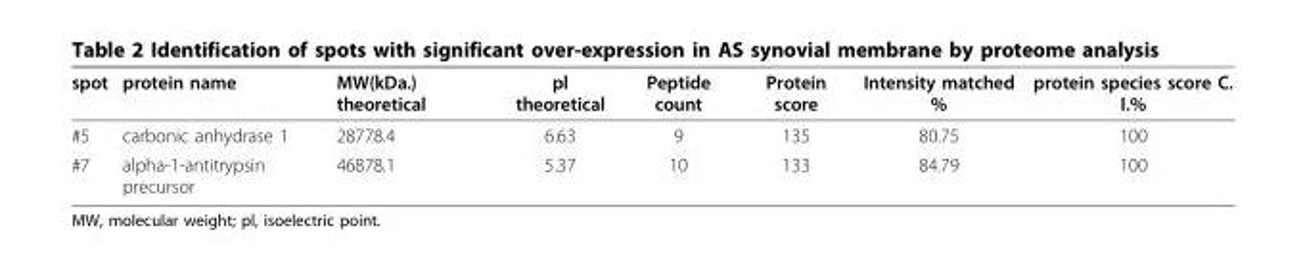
<table><thead><tr><td>spot</td><td>protein name</td><td>MW(kDa.) theoretical</td><td>pl theoretical</td><td>Peptide count</td><td>Protein score</td><td>Intensity matched %</td><td>protein species score C. I.%</td></tr></thead><tbody><tr><td>#5</td><td>carbonic anhydrase 1</td><td>28778.4</td><td>6.63</td><td>9</td><td>135</td><td>80.75</td><td>100</td></tr><tr><td>#7</td><td>alpha-1-antitrypsin precursor</td><td>46878.1</td><td>5.37</td><td>10</td><td>133</td><td>84.79</td><td>100</td></tr></tbody></table>